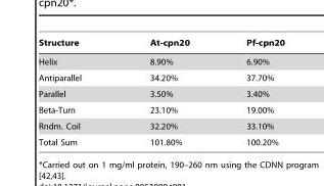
<table><thead><tr><td>Structure</td><td>At-cpn20</td><td>Pf-cpn20</td></tr></thead><tbody><tr><td>Helix</td><td>8.90%</td><td>6.90%</td></tr><tr><td>Antiparallel</td><td>34.20%</td><td>37.70%</td></tr><tr><td>Parallel</td><td>3.50%</td><td>3.40%</td></tr><tr><td>Beta-Turn</td><td>23.10%</td><td>19.00%</td></tr><tr><td>Rndm. Coil</td><td>32.20%</td><td>33.10%</td></tr><tr><td>Total Sum</td><td>101.80%</td><td>100.20%</td></tr></tbody></table>